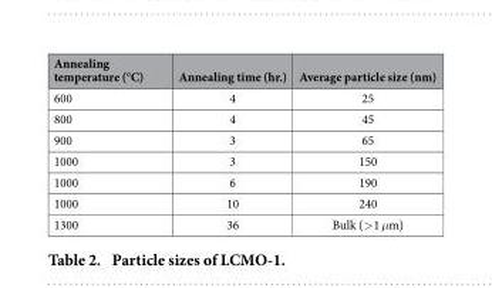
<table><thead><tr><td>Annealing temperature (°C)</td><td>Annealing time (hr.)</td><td>Average particle size (nm)</td></tr></thead><tbody><tr><td>600</td><td>4</td><td>25</td></tr><tr><td>800</td><td>4</td><td>45</td></tr><tr><td>900</td><td>3</td><td>65</td></tr><tr><td>1000</td><td>3</td><td>150</td></tr><tr><td>1000</td><td>6</td><td>190</td></tr><tr><td>1000</td><td>10</td><td>240</td></tr><tr><td>1300</td><td>36</td><td>Bulk (&gt; 1 μm)</td></tr></tbody></table>